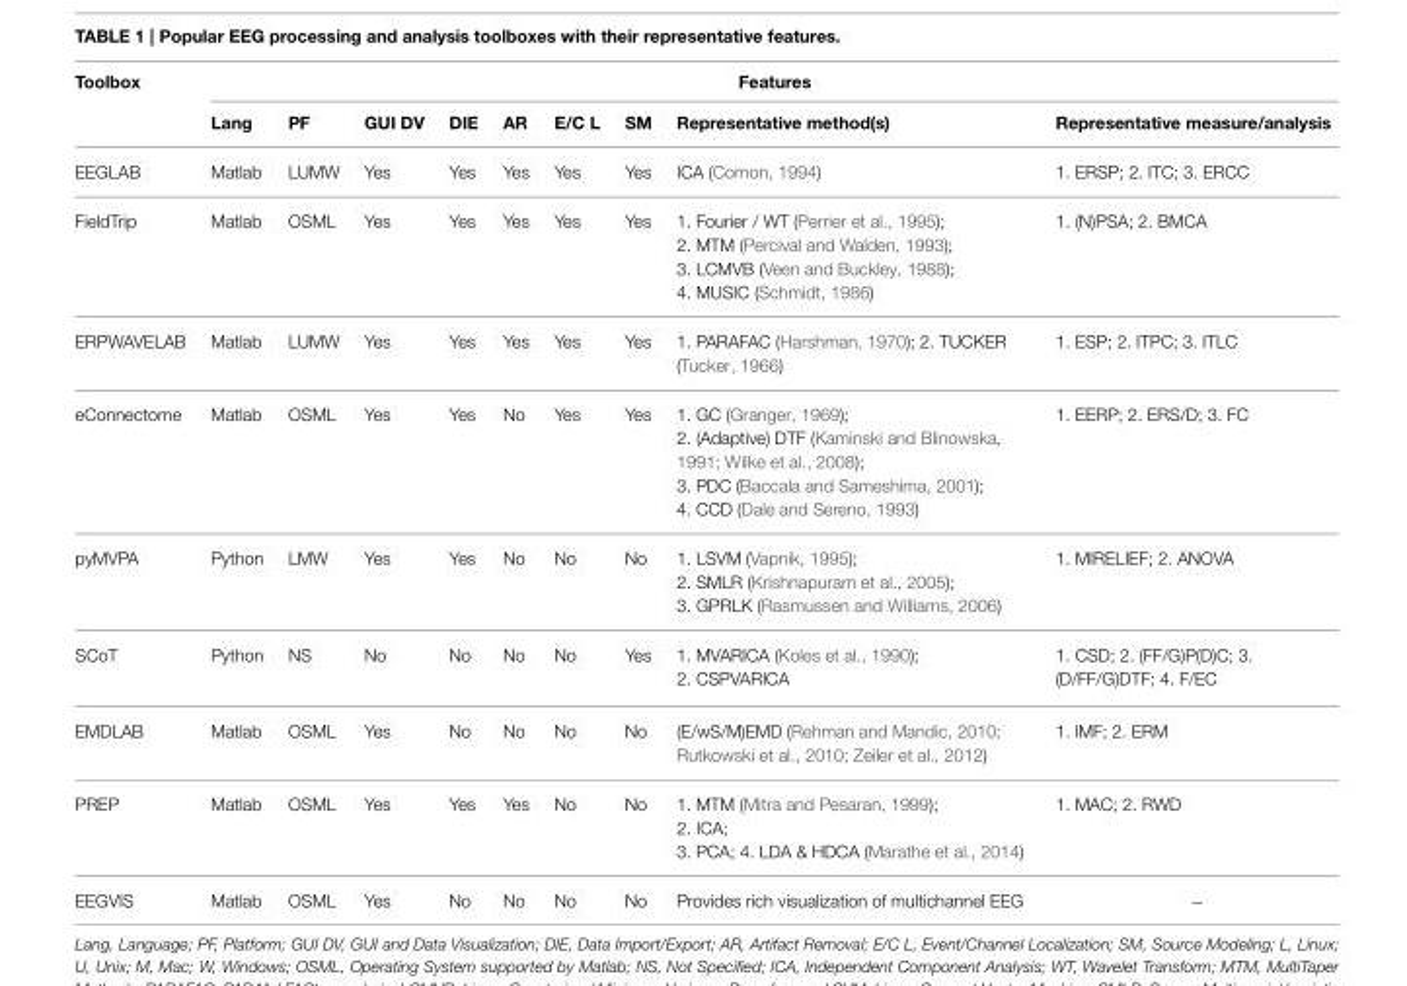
<table><thead><tr><td rowspan="2">Toolbox</td><td colspan="9">Features</td></tr><tr><td>Lang</td><td>PF</td><td>GUI DV</td><td>DIE</td><td>AR</td><td>E/C L</td><td>SM</td><td>Representative method(s)</td><td>Representative measure/analysis</td></tr></thead><tbody><tr><td>EEGLAB</td><td>Matlab</td><td>LUMW</td><td>Yes</td><td>Yes</td><td>Yes</td><td>Yes</td><td>Yes</td><td>ICA (Comon, 1994)</td><td>1. ERSP; 2. ITC; 3. ERCC</td></tr><tr><td>FieldTrip</td><td>Matlab</td><td>OSML</td><td>Yes</td><td>Yes</td><td>Yes</td><td>Yes</td><td>Yes</td><td>1. Fourier / WT (Perrier et al., 1995); 2. MTM (Percival and Walden, 1993); 3. LCMVB (Veen and Buckley, 1988); 4. MUSIC (Schmidt, 1986)</td><td>1. (N)PSA; 2. BMCA</td></tr><tr><td>ERPWAVELAB</td><td>Matlab</td><td>LUMW</td><td>Yes</td><td>Yes</td><td>Yes</td><td>Yes</td><td>Yes</td><td>1. PARAFAC (Harshman, 1970); 2. TUCKER (Tucker, 1966)</td><td>1. ESP; 2. ITPC; 3. ITLC</td></tr><tr><td>eConnectome</td><td>Matlab</td><td>OSML</td><td>Yes</td><td>Yes</td><td>No</td><td>Yes</td><td>Yes</td><td>1. GC (Granger, 1969); 2. (Adaptive) DTF (Kaminski and Blinowska, 1991; Wilke et al., 2008); 3. PDC (Baccala and Sameshima, 2001); 4. CCD (Dale and Sereno, 1993)</td><td>1. EERP; 2. ERS/D; 3. FC</td></tr><tr><td>pyMVPA</td><td>Python</td><td>LMW</td><td>Yes</td><td>Yes</td><td>No</td><td>No</td><td>No</td><td>1. LSVM (Vapnik, 1995); 2. SMLR (Krishnapuram et al., 2005); 3. GPRLK (Rasmussen and Williams, 2006)</td><td>1. MIRELIEF; 2. ANOVA</td></tr><tr><td>SCoT</td><td>Python</td><td>NS</td><td>No</td><td>No</td><td>No</td><td>No</td><td>Yes</td><td>1. MVARICA (Koles et al., 1990); 2. CSPVARICA</td><td>1. CSD; 2. (FF/G)P(D)C; 3. (D/FF/G)DTF; 4. F/EC</td></tr><tr><td>EMDLAB</td><td>Matlab</td><td>OSML</td><td>Yes</td><td>No</td><td>No</td><td>No</td><td>No</td><td>(E/wS/M)EMD (Rehman and Mandic, 2010; Rutkowski et al., 2010; Zeiler et al., 2012)</td><td>1. IMF; 2. ERM</td></tr><tr><td>PREP</td><td>Matlab</td><td>OSML</td><td>Yes</td><td>Yes</td><td>Yes</td><td>No</td><td>No</td><td>1. MTM (Mitra and Pesaran, 1999); 2. ICA; 3. PCA; 4. LDA &amp; HDCA (Marathe et al., 2014)</td><td>1. MAC; 2. RWD</td></tr><tr><td>EEGVIS</td><td>Matlab</td><td>OSML</td><td>Yes</td><td>No</td><td>No</td><td>No</td><td>No</td><td>Provides rich visualization of multichannel EEG</td><td>−</td></tr></tbody></table>